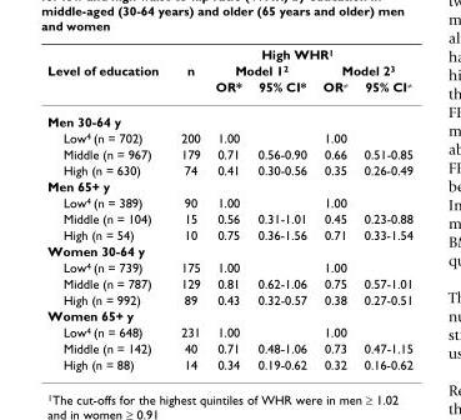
<table><thead><tr><td rowspan="3">Level of education</td><td colspan="5">High WHR<sup>1</sup></td></tr><tr><td rowspan="2">n</td><td colspan="2">Model 1<sup>2</sup></td><td colspan="2">Model 2<sup>3</sup></td></tr><tr><td>OR*</td><td>95% CI*</td><td>OR<sup>≠</sup></td><td>95% CI<sup>≠</sup></td></tr></thead><tbody><tr><td colspan="6">Men 30-64 y</td></tr><tr><td>Low<sup>4</sup> (n = 702)</td><td>200</td><td>1.00</td><td></td><td>1.00</td><td></td></tr><tr><td>Middle (n = 967)</td><td>179</td><td>0.71</td><td>0.56-0.90</td><td>0.66</td><td>0.51-0.85</td></tr><tr><td>High (n = 630)</td><td>74</td><td>0.41</td><td>0.30-0.56</td><td>0.35</td><td>0.26-0.49</td></tr><tr><td colspan="6">Men 65+ y</td></tr><tr><td>Low<sup>4</sup> (n = 389)</td><td>90</td><td>1.00</td><td></td><td>1.00</td><td></td></tr><tr><td>Middle (n = 104)</td><td>15</td><td>0.56</td><td>0.31-1.01</td><td>0.45</td><td>0.23-0.88</td></tr><tr><td>High (n = 54)</td><td>10</td><td>0.75</td><td>0.36-1.56</td><td>0.71</td><td>0.33-1.54</td></tr><tr><td colspan="6">Women 30-64 y</td></tr><tr><td>Low<sup>4</sup> (n = 739)</td><td>175</td><td>1.00</td><td></td><td>1.00</td><td></td></tr><tr><td>Middle (n = 787)</td><td>129</td><td>0.81</td><td>0.62-1.06</td><td>0.75</td><td>0.57-1.01</td></tr><tr><td>High (n = 992)</td><td>89</td><td>0.43</td><td>0.32-0.57</td><td>0.38</td><td>0.27-0.51</td></tr><tr><td colspan="6">Women 65+ y</td></tr><tr><td>Low<sup>4</sup> (n = 648)</td><td>231</td><td>1.00</td><td></td><td>1.00</td><td></td></tr><tr><td>Middle (n = 142)</td><td>40</td><td>0.71</td><td>0.48-1.06</td><td>0.73</td><td>0.47-1.15</td></tr><tr><td>High (n = 88)</td><td>14</td><td>0.34</td><td>0.19-0.62</td><td>0.32</td><td>0.16-0.62</td></tr></tbody></table>